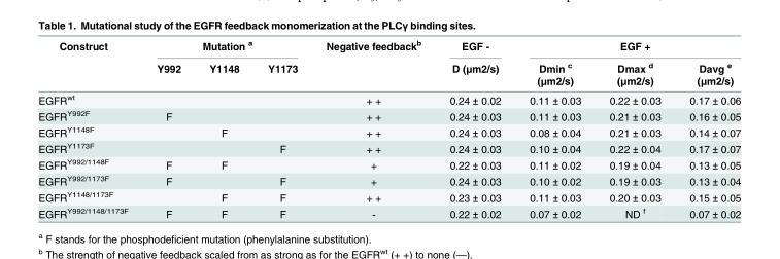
<table><thead><tr><td rowspan="3">Construct</td><td colspan="3">Mutation <sup>a</sup></td><td rowspan="3">Negative feedback<sup>b</sup></td><td rowspan="3">EGF - D (μm2/s)</td><td colspan="3">EGF +</td></tr><tr><td rowspan="2">Y992</td><td rowspan="2">Y1148</td><td rowspan="2">Y1173</td><td rowspan="2">Dmin <sup>c</sup> (μm2/s)</td><td rowspan="2">Dmax <sup>d</sup> (μm2/s)</td><td rowspan="2">Davg <sup>e</sup> (μm2/s)</td></tr><tr></tr></thead><tbody><tr><td>EGFR<sup>wt</sup></td><td></td><td></td><td></td><td>+ +</td><td>0.24 ± 0.02</td><td>0.11 ± 0.03</td><td>0.22 ± 0.03</td><td>0.17 ± 0.06</td></tr><tr><td>EGFR<sup>Y992F</sup></td><td>F</td><td></td><td></td><td>+ +</td><td>0.24 ± 0.03</td><td>0.11 ± 0.03</td><td>0.21 ± 0.03</td><td>0.16 ± 0.05</td></tr><tr><td>EGFR<sup>Y1148F</sup></td><td></td><td>F</td><td></td><td>+ +</td><td>0.24 ± 0.03</td><td>0.08 ± 0.04</td><td>0.21 ± 0.03</td><td>0.14 ± 0.07</td></tr><tr><td>EGFR<sup>Y1173F</sup></td><td></td><td></td><td>F</td><td>+ +</td><td>0.24 ± 0.03</td><td>0.10 ± 0.04</td><td>0.22 ± 0.04</td><td>0.17 ± 0.07</td></tr><tr><td>EGFR<sup>Y992/1148F</sup></td><td>F</td><td>F</td><td></td><td>+</td><td>0.22 ± 0.03</td><td>0.11 ± 0.02</td><td>0.19 ± 0.04</td><td>0.13 ± 0.05</td></tr><tr><td>EGFR<sup>Y992/1173F</sup></td><td>F</td><td></td><td>F</td><td>+</td><td>0.24 ± 0.03</td><td>0.10 ± 0.02</td><td>0.19 ± 0.03</td><td>0.13 ± 0.04</td></tr><tr><td>EGFR<sup>Y1148/1173F</sup></td><td></td><td>F</td><td>F</td><td>+ +</td><td>0.23 ± 0.03</td><td>0.11 ± 0.03</td><td>0.20 ± 0.03</td><td>0.15 ± 0.05</td></tr><tr><td>EGFR<sup>Y992/1148/1173F</sup></td><td>F</td><td>F</td><td>F</td><td>-</td><td>0.22 ± 0.02</td><td>0.07 ± 0.02</td><td>ND <sup>f</sup></td><td>0.07 ± 0.02</td></tr></tbody></table>